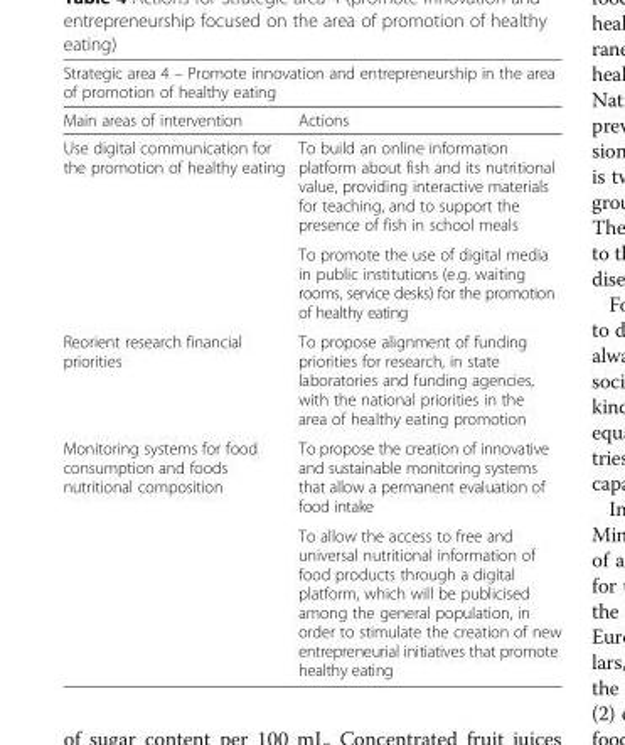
<table><thead><tr><td colspan="2">Strategic area 4 – Promote innovation and entrepreneurship in the area of promotion of healthy eating</td></tr><tr><td>Main areas of intervention</td><td>Actions</td></tr></thead><tbody><tr><td rowspan="2">Use digital communication for the promotion of healthy eating</td><td>To build an online information platform about fish and its nutritional value, providing interactive materials for teaching, and to support the presence of fish in school meals</td></tr><tr><td>To promote the use of digital media in public institutions (e.g. waiting rooms, service desks) for the promotion of healthy eating</td></tr><tr><td>Reorient research financial priorities</td><td>To propose alignment of funding priorities for research, in state laboratories and funding agencies, with the national priorities in the area of healthy eating promotion</td></tr><tr><td rowspan="2">Monitoring systems for food consumption and foods nutritional composition</td><td>To propose the creation of innovative and sustainable monitoring systems that allow a permanent evaluation of food intake</td></tr><tr><td>To allow the access to free and universal nutritional information of food products through a digital platform, which will be publicised among the general population, in order to stimulate the creation of new entrepreneurial initiatives that promote healthy eating</td></tr></tbody></table>